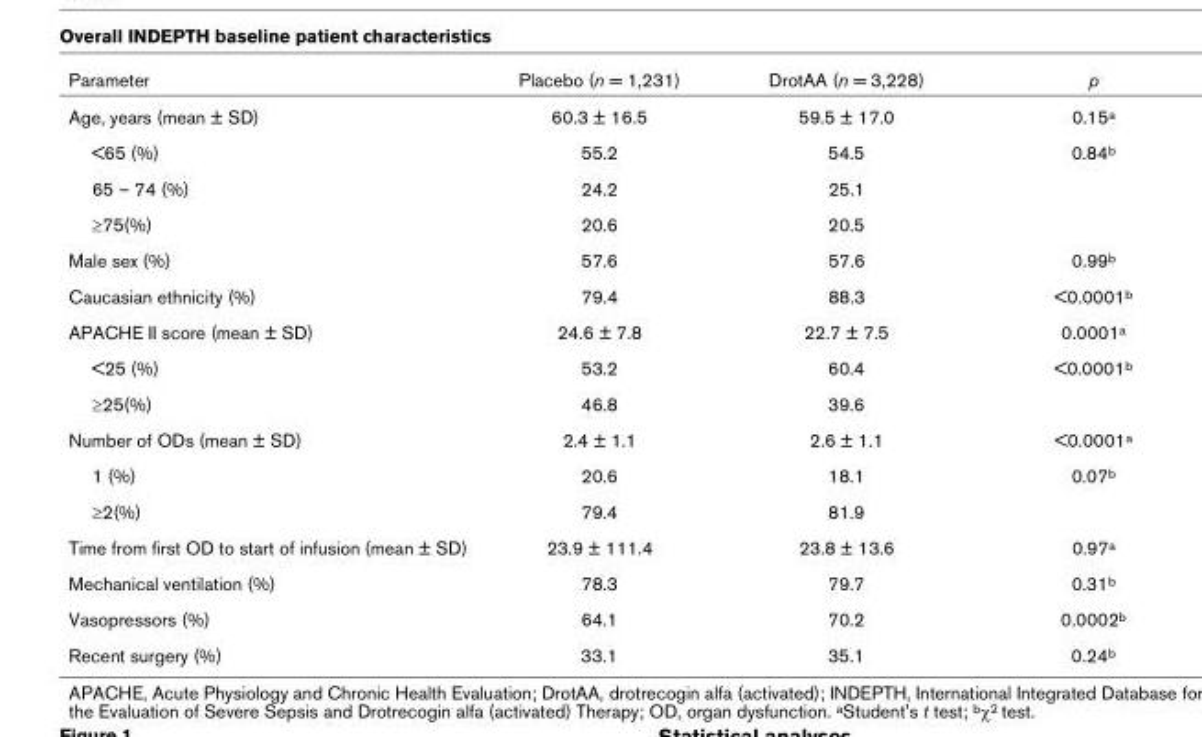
<table><thead><tr><td>Parameter</td><td>Placebo (n = 1,231)</td><td>DrotAA (n = 3,228)</td><td>p</td></tr></thead><tbody><tr><td>Age, years (mean ± SD)</td><td>60.3 ± 16.5</td><td>59.5 ± 17.0</td><td>0.15a</td></tr><tr><td>&lt;65 (%)</td><td>55.2</td><td>54.5</td><td>0.84b</td></tr><tr><td>65 – 74 (%)</td><td>24.2</td><td>25.1</td><td></td></tr><tr><td>≥75(%)</td><td>20.6</td><td>20.5</td><td></td></tr><tr><td>Male sex (%)</td><td>57.6</td><td>57.6</td><td>0.99b</td></tr><tr><td>Caucasian ethnicity (%)</td><td>79.4</td><td>88.3</td><td>&lt;0.0001b</td></tr><tr><td>APACHE II score (mean ± SD)</td><td>24.6 ± 7.8</td><td>22.7 ± 7.5</td><td>0.0001a</td></tr><tr><td>&lt;25 (%)</td><td>53.2</td><td>60.4</td><td>&lt;0.0001b</td></tr><tr><td>≥25(%)</td><td>46.8</td><td>39.6</td><td></td></tr><tr><td>Number of ODs (mean ± SD)</td><td>2.4 ± 1.1</td><td>2.6 ± 1.1</td><td>&lt;0.0001a</td></tr><tr><td>1 (%)</td><td>20.6</td><td>18.1</td><td>0.07b</td></tr><tr><td>≥2(%)</td><td>79.4</td><td>81.9</td><td></td></tr><tr><td>Time from first OD to start of infusion (mean ± SD)</td><td>23.9 ± 111.4</td><td>23.8 ± 13.6</td><td>0.97a</td></tr><tr><td>Mechanical ventilation (%)</td><td>78.3</td><td>79.7</td><td>0.31b</td></tr><tr><td>Vasopressors (%)</td><td>64.1</td><td>70.2</td><td>0.0002b</td></tr><tr><td>Recent surgery (%)</td><td>33.1</td><td>35.1</td><td>0.24b</td></tr></tbody></table>